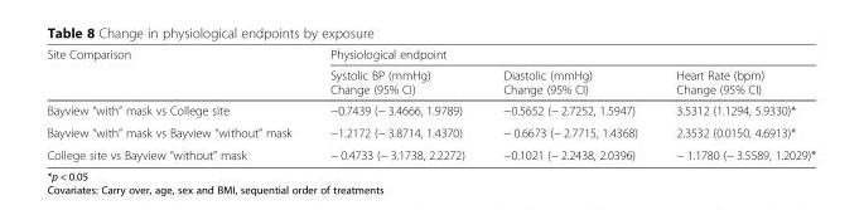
<table><thead><tr><td rowspan="2">Site Comparison</td><td colspan="3">Physiological endpoint</td></tr><tr><td>Systolic BP (mmHg) Change (95% CI)</td><td>Diastolic (mmHg) Change (95% CI)</td><td>Heart Rate (bpm) Change (95% CI)</td></tr></thead><tbody><tr><td>Bayview “with” mask vs College site</td><td>−0.7439 (− 3.4666, 1.9789)</td><td>−0.5652 (− 2.7252, 1.5947)</td><td>3.5312 (1.1294, 5.9330)*</td></tr><tr><td>Bayview “with” mask vs Bayview “without” mask</td><td>−1.2172 (− 3.8714, 1.4370)</td><td>− 0.6673 (− 2.7715, 1.4368)</td><td>2.3532 (0.0150, 4.6913)*</td></tr><tr><td>College site vs Bayview “without” mask</td><td>− 0.4733 (− 3.1738, 2.2272)</td><td>−0.1021 (− 2.2438, 2.0396)</td><td>− 1.1780 (− 3.5589, 1.2029)*</td></tr></tbody></table>